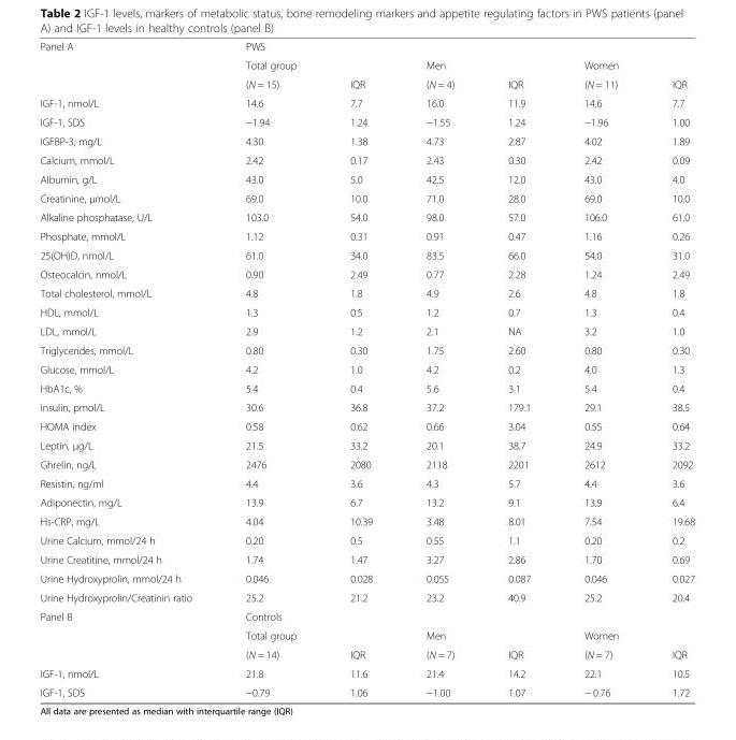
<table><tbody><tr><td rowspan="3">Panel A</td><td colspan="6">PWS</td></tr><tr><td>Total group</td><td></td><td>Men</td><td></td><td>Women</td><td></td></tr><tr><td>(N = 15)</td><td>IQR</td><td>(N = 4)</td><td>IQR</td><td>(N = 11)</td><td>IQR</td></tr><tr><td>IGF-1, nmol/L</td><td>14.6</td><td>7.7</td><td>16.0</td><td>11.9</td><td>14.6</td><td>7.7</td></tr><tr><td>IGF-1, SDS</td><td>−1.94</td><td>1.24</td><td>−1.55</td><td>1.24</td><td>−1.96</td><td>1.00</td></tr><tr><td>IGFBP-3, mg/L</td><td>4.30</td><td>1.38</td><td>4.73</td><td>2.87</td><td>4.02</td><td>1.89</td></tr><tr><td>Calcium, mmol/L</td><td>2.42</td><td>0.17</td><td>2.43</td><td>0.30</td><td>2.42</td><td>0.09</td></tr><tr><td>Albumin, g/L</td><td>43.0</td><td>5.0</td><td>42.5</td><td>12.0</td><td>43.0</td><td>4.0</td></tr><tr><td>Creatinine, μmol/L</td><td>69.0</td><td>10.0</td><td>71.0</td><td>28.0</td><td>69.0</td><td>10.0</td></tr><tr><td>Alkaline phosphatase, U/L</td><td>103.0</td><td>54.0</td><td>98.0</td><td>57.0</td><td>106.0</td><td>61.0</td></tr><tr><td>Phosphate, mmol/L</td><td>1.12</td><td>0.31</td><td>0.91</td><td>0.47</td><td>1.16</td><td>0.26</td></tr><tr><td>25(OH)D, nmol/L</td><td>61.0</td><td>34.0</td><td>83.5</td><td>66.0</td><td>54.0</td><td>31.0</td></tr><tr><td>Osteocalcin, nmol/L</td><td>0.90</td><td>2.49</td><td>0.77</td><td>2.28</td><td>1.24</td><td>2.49</td></tr><tr><td>Total cholesterol, mmol/L</td><td>4.8</td><td>1.8</td><td>4.9</td><td>2.6</td><td>4.8</td><td>1.8</td></tr><tr><td>HDL, mmol/L</td><td>1.3</td><td>0.5</td><td>1.2</td><td>0.7</td><td>1.3</td><td>0.4</td></tr><tr><td>LDL, mmol/L</td><td>2.9</td><td>1.2</td><td>2.1</td><td>NA</td><td>3.2</td><td>1.0</td></tr><tr><td>Triglycerides, mmol/L</td><td>0.80</td><td>0.30</td><td>1.75</td><td>2.60</td><td>0.80</td><td>0.30</td></tr><tr><td>Glucose, mmol/L</td><td>4.2</td><td>1.0</td><td>4.2</td><td>0.2</td><td>4.0</td><td>1.3</td></tr><tr><td>HbA1c, %</td><td>5.4</td><td>0.4</td><td>5.6</td><td>3.1</td><td>5.4</td><td>0.4</td></tr><tr><td>Insulin, pmol/L</td><td>30.6</td><td>36.8</td><td>37.2</td><td>179.1</td><td>29.1</td><td>38.5</td></tr><tr><td>HOMA index</td><td>0.58</td><td>0.62</td><td>0.66</td><td>3.04</td><td>0.55</td><td>0.64</td></tr><tr><td>Leptin, μg/L</td><td>21.5</td><td>33.2</td><td>20.1</td><td>38.7</td><td>24.9</td><td>33.2</td></tr><tr><td>Ghrelin, ng/L</td><td>2476</td><td>2080</td><td>2118</td><td>2201</td><td>2612</td><td>2092</td></tr><tr><td>Resistin, ng/ml</td><td>4.4</td><td>3.6</td><td>4.3</td><td>5.7</td><td>4.4</td><td>3.6</td></tr><tr><td>Adiponectin, mg/L</td><td>13.9</td><td>6.7</td><td>13.2</td><td>9.1</td><td>13.9</td><td>6.4</td></tr><tr><td>Hs-CRP, mg/L</td><td>4.04</td><td>10.39</td><td>3.48</td><td>8.01</td><td>7.54</td><td>19.68</td></tr><tr><td>Urine Calcium, mmol/24 h</td><td>0.20</td><td>0.5</td><td>0.55</td><td>1.1</td><td>0.20</td><td>0.2</td></tr><tr><td>Urine Creatitine, mmol/24 h</td><td>1.74</td><td>1.47</td><td>3.27</td><td>2.86</td><td>1.70</td><td>0.69</td></tr><tr><td>Urine Hydroxyprolin, mmol/24 h</td><td>0.046</td><td>0.028</td><td>0.055</td><td>0.087</td><td>0.046</td><td>0.027</td></tr><tr><td>Urine Hydroxyprolin/Creatinin ratio</td><td>25.2</td><td>21.2</td><td>23.2</td><td>40.9</td><td>25.2</td><td>20.4</td></tr><tr><td rowspan="3">Panel B</td><td colspan="6">Controls</td></tr><tr><td>Total group</td><td></td><td>Men</td><td></td><td>Women</td><td></td></tr><tr><td>(N = 14)</td><td>IQR</td><td>(N = 7)</td><td>IQR</td><td>(N = 7)</td><td>IQR</td></tr><tr><td>IGF-1, nmol/L</td><td>21.8</td><td>11.6</td><td>21.4</td><td>14.2</td><td>22.1</td><td>10.5</td></tr><tr><td>IGF-1, SDS</td><td>−0.79</td><td>1.06</td><td>−1.00</td><td>1.07</td><td>− 0.76</td><td>1.72</td></tr></tbody></table>